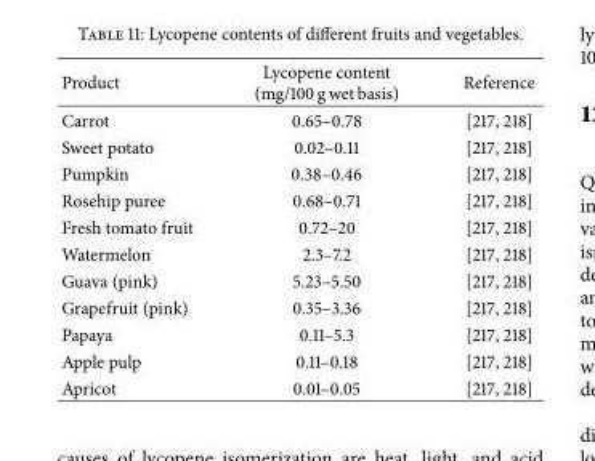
<table><thead><tr><td>Product</td><td>Lycopene content (mg/100 g wet basis)</td><td>Reference</td></tr></thead><tbody><tr><td>Carrot</td><td>0.65–0.78</td><td>[217, 218]</td></tr><tr><td>Sweet potato</td><td>0.02–0.11</td><td>[217, 218]</td></tr><tr><td>Pumpkin</td><td>0.38–0.46</td><td>[217, 218]</td></tr><tr><td>Rosehip puree</td><td>0.68–0.71</td><td>[217, 218]</td></tr><tr><td>Fresh tomato fruit</td><td>0.72–20</td><td>[217, 218]</td></tr><tr><td>Watermelon</td><td>2.3–7.2</td><td>[217, 218]</td></tr><tr><td>Guava (pink)</td><td>5.23–5.50</td><td>[217, 218]</td></tr><tr><td>Grapefruit (pink)</td><td>0.35–3.36</td><td>[217, 218]</td></tr><tr><td>Papaya</td><td>0.11–5.3</td><td>[217, 218]</td></tr><tr><td>Apple pulp</td><td>0.11–0.18</td><td>[217, 218]</td></tr><tr><td>Apricot</td><td>0.01–0.05</td><td>[217, 218]</td></tr></tbody></table>